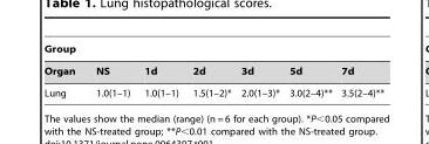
<table><thead><tr><td colspan="7">Group</td></tr><tr><td>Organ</td><td>NS</td><td>1d</td><td>2d</td><td>3d</td><td>5d</td><td>7d</td></tr></thead><tbody><tr><td>Lung</td><td>1.0(1–1)</td><td>1.0(1–1)</td><td>1.5(1–2)*</td><td>2.0(1–3)*</td><td>3.0(2–4)**</td><td>3.5(2–4)**</td></tr></tbody></table>